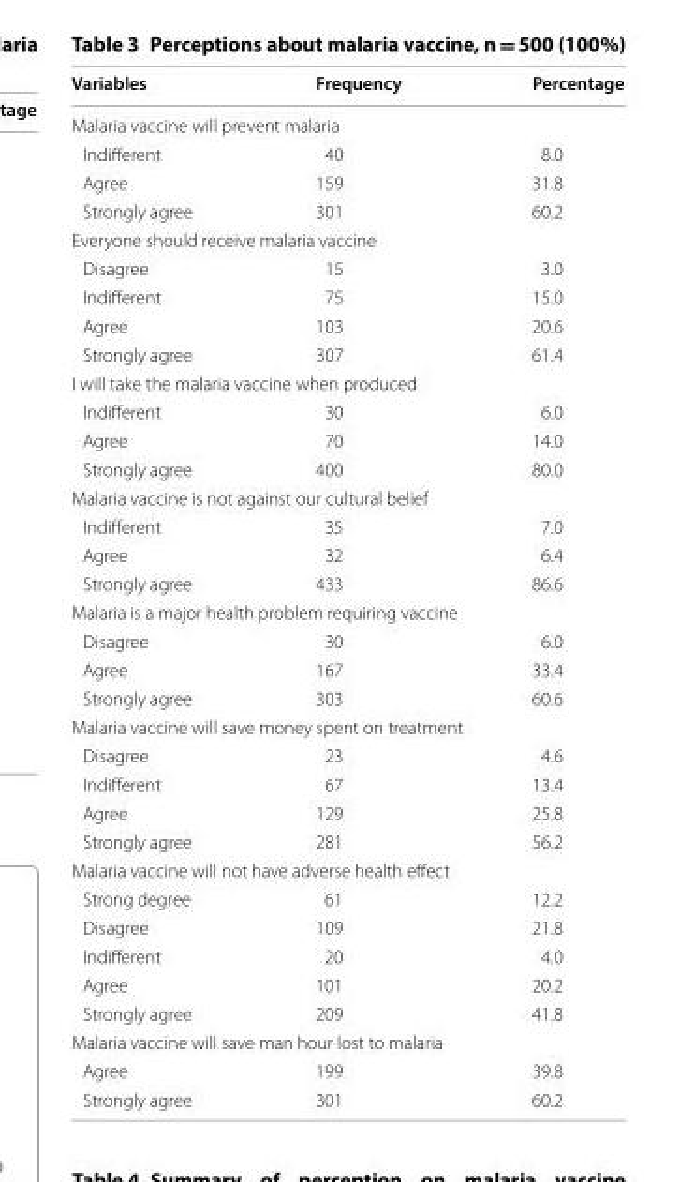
<table><thead><tr><td>Variables</td><td>Frequency</td><td>Percentage</td></tr></thead><tbody><tr><td colspan="3">Malaria vaccine will prevent malaria</td></tr><tr><td>Indifferent</td><td>40</td><td>8.0</td></tr><tr><td>Agree</td><td>159</td><td>31.8</td></tr><tr><td>Strongly agree</td><td>301</td><td>60.2</td></tr><tr><td colspan="3">Everyone should receive malaria vaccine</td></tr><tr><td>Disagree</td><td>15</td><td>3.0</td></tr><tr><td>Indifferent</td><td>75</td><td>15.0</td></tr><tr><td>Agree</td><td>103</td><td>20.6</td></tr><tr><td>Strongly agree</td><td>307</td><td>61.4</td></tr><tr><td colspan="3">I will take the malaria vaccine when produced</td></tr><tr><td>Indifferent</td><td>30</td><td>6.0</td></tr><tr><td>Agree</td><td>70</td><td>14.0</td></tr><tr><td>Strongly agree</td><td>400</td><td>80.0</td></tr><tr><td colspan="3">Malaria vaccine is not against our cultural belief</td></tr><tr><td>Indifferent</td><td>35</td><td>7.0</td></tr><tr><td>Agree</td><td>32</td><td>6.4</td></tr><tr><td>Strongly agree</td><td>433</td><td>86.6</td></tr><tr><td colspan="3">Malaria is a major health problem requiring vaccine</td></tr><tr><td>Disagree</td><td>30</td><td>6.0</td></tr><tr><td>Agree</td><td>167</td><td>33.4</td></tr><tr><td>Strongly agree</td><td>303</td><td>60.6</td></tr><tr><td colspan="3">Malaria vaccine will save money spent on treatment</td></tr><tr><td>Disagree</td><td>23</td><td>4.6</td></tr><tr><td>Indifferent</td><td>67</td><td>13.4</td></tr><tr><td>Agree</td><td>129</td><td>25.8</td></tr><tr><td>Strongly agree</td><td>281</td><td>56.2</td></tr><tr><td colspan="3">Malaria vaccine will not have adverse health effect</td></tr><tr><td>Strong degree</td><td>61</td><td>12.2</td></tr><tr><td>Disagree</td><td>109</td><td>21.8</td></tr><tr><td>Indifferent</td><td>20</td><td>4.0</td></tr><tr><td>Agree</td><td>101</td><td>20.2</td></tr><tr><td>Strongly agree</td><td>209</td><td>41.8</td></tr><tr><td colspan="3">Malaria vaccine will save man hour lost to malaria</td></tr><tr><td>Agree</td><td>199</td><td>39.8</td></tr><tr><td>Strongly agree</td><td>301</td><td>60.2</td></tr></tbody></table>